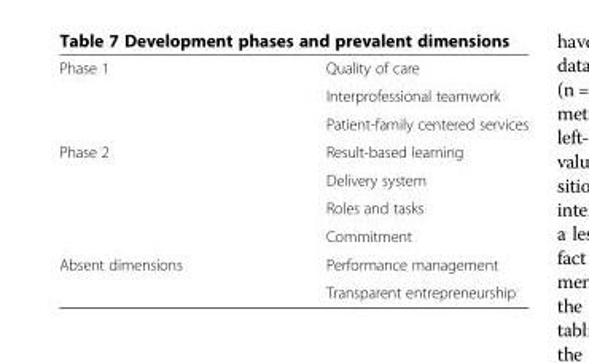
<table><tbody><tr><td rowspan="3">Phase 1</td><td>Quality of care</td></tr><tr><td>Interprofessional teamwork</td></tr><tr><td>Patient-family centered services</td></tr><tr><td rowspan="4">Phase 2</td><td>Result-based learning</td></tr><tr><td>Delivery system</td></tr><tr><td>Roles and tasks</td></tr><tr><td>Commitment</td></tr><tr><td rowspan="2">Absent dimensions</td><td>Performance management</td></tr><tr><td>Transparent entrepreneurship</td></tr></tbody></table>